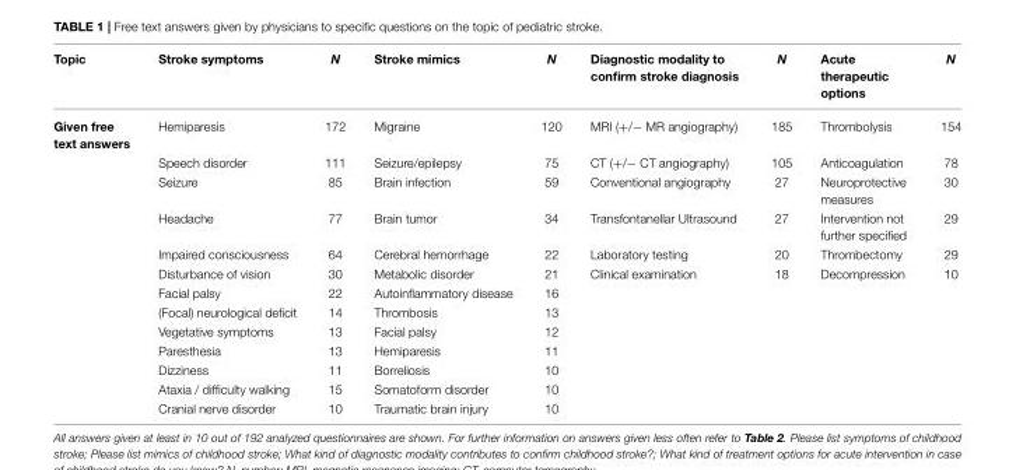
<table><thead><tr><td>Topic</td><td>Stroke symptoms</td><td>N</td><td>Stroke mimics</td><td>N</td><td>Diagnostic modality to confirm stroke diagnosis</td><td>N</td><td>Acute therapeutic options</td><td>N</td></tr></thead><tbody><tr><td rowspan="13">Given free text answers</td><td>Hemiparesis</td><td>172</td><td>Migraine</td><td>120</td><td>MRI (+/− MR angiography)</td><td>185</td><td>Thrombolysis</td><td>154</td></tr><tr><td>Speech disorder</td><td>111</td><td>Seizure/epilepsy</td><td>75</td><td>CT (+/− CT angiography)</td><td>105</td><td>Anticoagulation</td><td>78</td></tr><tr><td>Seizure</td><td>85</td><td>Brain infection</td><td>59</td><td>Conventional angiography</td><td>27</td><td>Neuroprotective measures</td><td>30</td></tr><tr><td>Headache</td><td>77</td><td>Brain tumor</td><td>34</td><td>Transfontanellar Ultrasound</td><td>27</td><td>Intervention not further specified</td><td>29</td></tr><tr><td>Impaired consciousness</td><td>64</td><td>Cerebral hemorrhage</td><td>22</td><td>Laboratory testing</td><td>20</td><td>Thrombectomy</td><td>29</td></tr><tr><td>Disturbance of vision</td><td>30</td><td>Metabolic disorder</td><td>21</td><td>Clinical examination</td><td>18</td><td>Decompression</td><td>10</td></tr><tr><td>Facial palsy</td><td>22</td><td>Autoinflammatory disease</td><td>16</td><td></td><td></td><td></td><td></td></tr><tr><td>(Focal) neurological deficit</td><td>14</td><td>Thrombosis</td><td>13</td><td></td><td></td><td></td><td></td></tr><tr><td>Vegetative symptoms</td><td>13</td><td>Facial palsy</td><td>12</td><td></td><td></td><td></td><td></td></tr><tr><td>Paresthesia</td><td>13</td><td>Hemiparesis</td><td>11</td><td></td><td></td><td></td><td></td></tr><tr><td>Dizziness</td><td>11</td><td>Borreliosis</td><td>10</td><td></td><td></td><td></td><td></td></tr><tr><td>Ataxia / difficulty walking</td><td>15</td><td>Somatoform disorder</td><td>10</td><td></td><td></td><td></td><td></td></tr><tr><td>Cranial nerve disorder</td><td>10</td><td>Traumatic brain injury</td><td>10</td><td></td><td></td><td></td><td></td></tr></tbody></table>